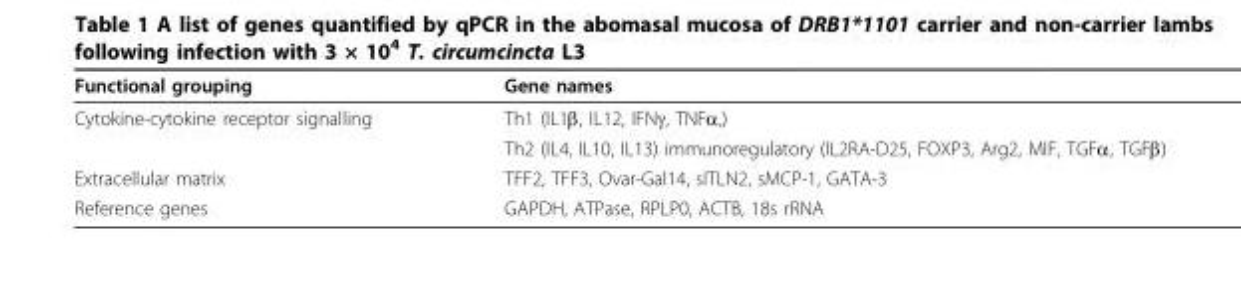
<table><thead><tr><td>Functional grouping</td><td>Gene names</td></tr></thead><tbody><tr><td rowspan="2">Cytokine-cytokine receptor signalling</td><td>Th1 (IL1β, IL12, IFNγ, TNFα,)</td></tr><tr><td>Th2 (IL4, IL10, IL13) immunoregulatory (IL2RA-D25, FOXP3, Arg2, MIF, TGFα, TGFβ)</td></tr><tr><td>Extracellular matrix</td><td>TFF2, TFF3, Ovar-Gal14, sITLN2, sMCP-1, GATA-3</td></tr><tr><td>Reference genes</td><td>GAPDH, ATPase, RPLP0, ACTB, 18s rRNA</td></tr></tbody></table>